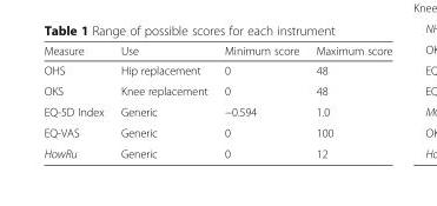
<table><thead><tr><td>Measure</td><td>Use</td><td>Minimum score</td><td>Maximum score</td></tr></thead><tbody><tr><td>OHS</td><td>Hip replacement</td><td>0</td><td>48</td></tr><tr><td>OKS</td><td>Knee replacement</td><td>0</td><td>48</td></tr><tr><td>EQ-5D Index</td><td>Generic</td><td>−0.594</td><td>1.0</td></tr><tr><td>EQ-VAS</td><td>Generic</td><td>0</td><td>100</td></tr><tr><td>HowRu</td><td>Generic</td><td>0</td><td>12</td></tr></tbody></table>